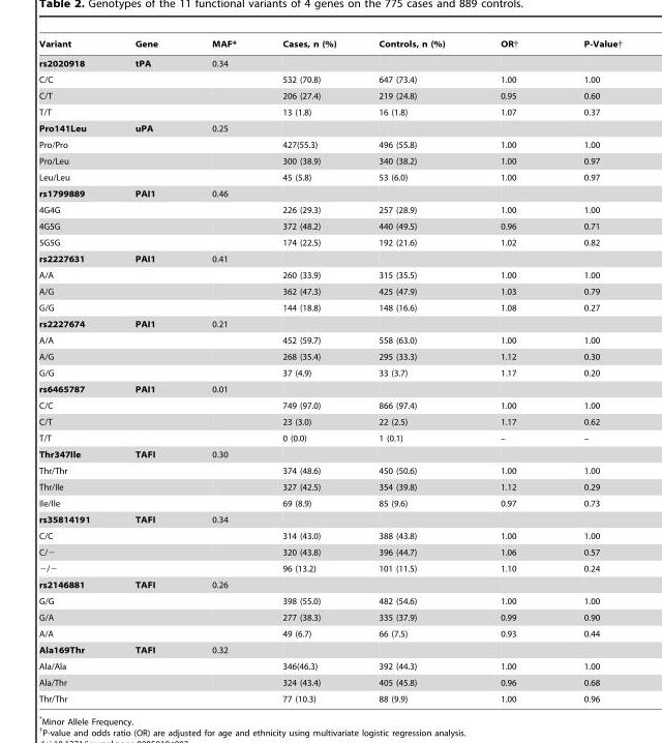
<table><thead><tr><td>Variant</td><td>Gene</td><td>MAF*</td><td>Cases, n (%)</td><td>Controls, n (%)</td><td>OR†</td><td>P-Value†</td></tr></thead><tbody><tr><td>rs2020918</td><td>tPA</td><td>0.34</td><td></td><td></td><td></td><td></td></tr><tr><td>C/C</td><td></td><td></td><td>532 (70.8)</td><td>647 (73.4)</td><td>1.00</td><td>1.00</td></tr><tr><td>C/T</td><td></td><td></td><td>206 (27.4)</td><td>219 (24.8)</td><td>0.95</td><td>0.60</td></tr><tr><td>T/T</td><td></td><td></td><td>13 (1.8)</td><td>16 (1.8)</td><td>1.07</td><td>0.37</td></tr><tr><td>Pro141Leu</td><td>uPA</td><td>0.25</td><td></td><td></td><td></td><td></td></tr><tr><td>Pro/Pro</td><td></td><td></td><td>427(55.3)</td><td>496 (55.8)</td><td>1.00</td><td>1.00</td></tr><tr><td>Pro/Leu</td><td></td><td></td><td>300 (38.9)</td><td>340 (38.2)</td><td>1.00</td><td>0.97</td></tr><tr><td>Leu/Leu</td><td></td><td></td><td>45 (5.8)</td><td>53 (6.0)</td><td>1.00</td><td>0.97</td></tr><tr><td>rs1799889</td><td>PAI1</td><td>0.46</td><td></td><td></td><td></td><td></td></tr><tr><td>4G4G</td><td></td><td></td><td>226 (29.3)</td><td>257 (28.9)</td><td>1.00</td><td>1.00</td></tr><tr><td>4G5G</td><td></td><td></td><td>372 (48.2)</td><td>440 (49.5)</td><td>0.96</td><td>0.71</td></tr><tr><td>5G5G</td><td></td><td></td><td>174 (22.5)</td><td>192 (21.6)</td><td>1.02</td><td>0.82</td></tr><tr><td>rs2227631</td><td>PAI1</td><td>0.41</td><td></td><td></td><td></td><td></td></tr><tr><td>A/A</td><td></td><td></td><td>260 (33.9)</td><td>315 (35.5)</td><td>1.00</td><td>1.00</td></tr><tr><td>A/G</td><td></td><td></td><td>362 (47.3)</td><td>425 (47.9)</td><td>1.03</td><td>0.79</td></tr><tr><td>G/G</td><td></td><td></td><td>144 (18.8)</td><td>148 (16.6)</td><td>1.08</td><td>0.27</td></tr><tr><td>rs2227674</td><td>PAI1</td><td>0.21</td><td></td><td></td><td></td><td></td></tr><tr><td>A/A</td><td></td><td></td><td>452 (59.7)</td><td>558 (63.0)</td><td>1.00</td><td>1.00</td></tr><tr><td>A/G</td><td></td><td></td><td>268 (35.4)</td><td>295 (33.3)</td><td>1.12</td><td>0.30</td></tr><tr><td>G/G</td><td></td><td></td><td>37 (4.9)</td><td>33 (3.7)</td><td>1.17</td><td>0.20</td></tr><tr><td>rs6465787</td><td>PAI1</td><td>0.01</td><td></td><td></td><td></td><td></td></tr><tr><td>C/C</td><td></td><td></td><td>749 (97.0)</td><td>866 (97.4)</td><td>1.00</td><td>1.00</td></tr><tr><td>C/T</td><td></td><td></td><td>23 (3.0)</td><td>22 (2.5)</td><td>1.17</td><td>0.62</td></tr><tr><td>T/T</td><td></td><td></td><td>0 (0.0)</td><td>1 (0.1)</td><td>–</td><td>–</td></tr><tr><td>Thr347Ile</td><td>TAFI</td><td>0.30</td><td></td><td></td><td></td><td></td></tr><tr><td>Thr/Thr</td><td></td><td></td><td>374 (48.6)</td><td>450 (50.6)</td><td>1.00</td><td>1.00</td></tr><tr><td>Thr/Ile</td><td></td><td></td><td>327 (42.5)</td><td>354 (39.8)</td><td>1.12</td><td>0.29</td></tr><tr><td>Ile/Ile</td><td></td><td></td><td>69 (8.9)</td><td>85 (9.6)</td><td>0.97</td><td>0.73</td></tr><tr><td>rs35814191</td><td>TAFI</td><td>0.34</td><td></td><td></td><td></td><td></td></tr><tr><td>C/C</td><td></td><td></td><td>314 (43.0)</td><td>388 (43.8)</td><td>1.00</td><td>1.00</td></tr><tr><td>C/−</td><td></td><td></td><td>320 (43.8)</td><td>396 (44.7)</td><td>1.06</td><td>0.57</td></tr><tr><td>−/−</td><td></td><td></td><td>96 (13.2)</td><td>101 (11.5)</td><td>1.10</td><td>0.24</td></tr><tr><td>rs2146881</td><td>TAFI</td><td>0.26</td><td></td><td></td><td></td><td></td></tr><tr><td>G/G</td><td></td><td></td><td>398 (55.0)</td><td>482 (54.6)</td><td>1.00</td><td>1.00</td></tr><tr><td>G/A</td><td></td><td></td><td>277 (38.3)</td><td>335 (37.9)</td><td>0.99</td><td>0.90</td></tr><tr><td>A/A</td><td></td><td></td><td>49 (6.7)</td><td>66 (7.5)</td><td>0.93</td><td>0.44</td></tr><tr><td>Ala169Thr</td><td>TAFI</td><td>0.32</td><td></td><td></td><td></td><td></td></tr><tr><td>Ala/Ala</td><td></td><td></td><td>346(46.3)</td><td>392 (44.3)</td><td>1.00</td><td>1.00</td></tr><tr><td>Ala/Thr</td><td></td><td></td><td>324 (43.4)</td><td>405 (45.8)</td><td>0.96</td><td>0.68</td></tr><tr><td>Thr/Thr</td><td></td><td></td><td>77 (10.3)</td><td>88 (9.9)</td><td>1.00</td><td>0.96</td></tr></tbody></table>